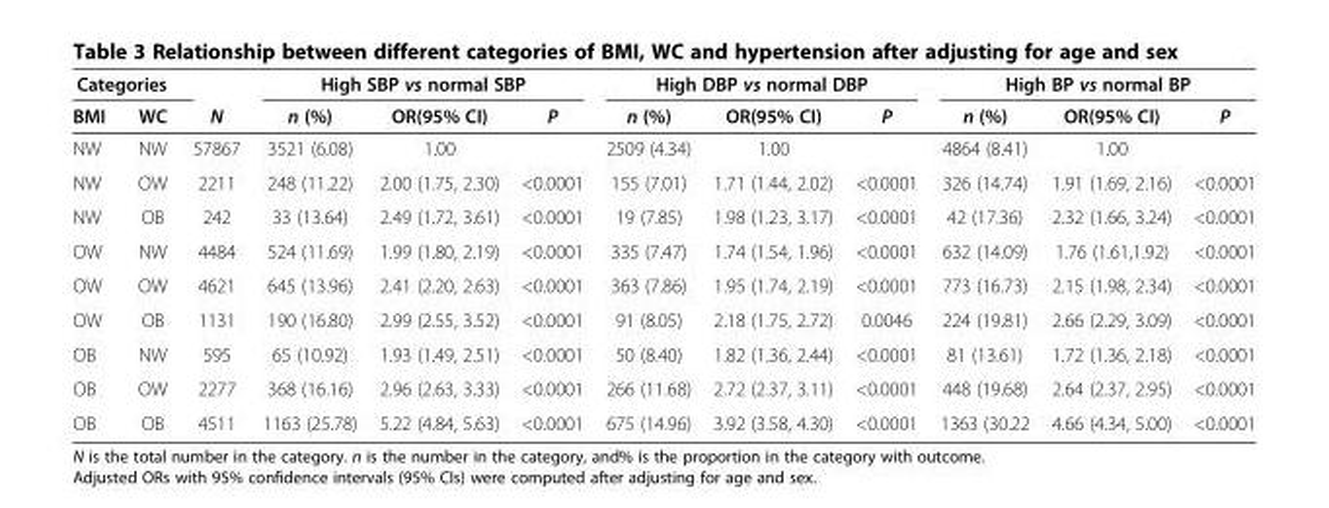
<table><thead><tr><td colspan="2">Categories</td><td rowspan="2">N</td><td colspan="3">High SBP vs normal SBP</td><td colspan="3">High DBP vs normal DBP</td><td colspan="3">High BP vs normal BP</td></tr><tr><td>BMI</td><td>WC</td><td>n (%)</td><td>OR(95% CI)</td><td>P</td><td>n (%)</td><td>OR(95% CI)</td><td>P</td><td>n (%)</td><td>OR(95% CI)</td><td>P</td></tr></thead><tbody><tr><td>NW</td><td>NW</td><td>57867</td><td>3521 (6.08)</td><td>1.00</td><td></td><td>2509 (4.34)</td><td>1.00</td><td></td><td>4864 (8.41)</td><td>1.00</td><td></td></tr><tr><td>NW</td><td>OW</td><td>2211</td><td>248 (11.22)</td><td>2.00 (1.75, 2.30)</td><td>&lt;0.0001</td><td>155 (7.01)</td><td>1.71 (1.44, 2.02)</td><td>&lt;0.0001</td><td>326 (14.74)</td><td>1.91 (1.69, 2.16)</td><td>&lt;0.0001</td></tr><tr><td>NW</td><td>OB</td><td>242</td><td>33 (13.64)</td><td>2.49 (1.72, 3.61)</td><td>&lt;0.0001</td><td>19 (7.85)</td><td>1.98 (1.23, 3.17)</td><td>&lt;0.0001</td><td>42 (17.36)</td><td>2.32 (1.66, 3.24)</td><td>&lt;0.0001</td></tr><tr><td>OW</td><td>NW</td><td>4484</td><td>524 (11.69)</td><td>1.99 (1.80, 2.19)</td><td>&lt;0.0001</td><td>335 (7.47)</td><td>1.74 (1.54, 1.96)</td><td>&lt;0.0001</td><td>632 (14.09)</td><td>1.76 (1.61,1.92)</td><td>&lt;0.0001</td></tr><tr><td>OW</td><td>OW</td><td>4621</td><td>645 (13.96)</td><td>2.41 (2.20, 2.63)</td><td>&lt;0.0001</td><td>363 (7.86)</td><td>1.95 (1.74, 2.19)</td><td>&lt;0.0001</td><td>773 (16.73)</td><td>2.15 (1.98, 2.34)</td><td>&lt;0.0001</td></tr><tr><td>OW</td><td>OB</td><td>1131</td><td>190 (16.80)</td><td>2.99 (2.55, 3.52)</td><td>&lt;0.0001</td><td>91 (8.05)</td><td>2.18 (1.75, 2.72)</td><td>0.0046</td><td>224 (19.81)</td><td>2.66 (2.29, 3.09)</td><td>&lt;0.0001</td></tr><tr><td>OB</td><td>NW</td><td>595</td><td>65 (10.92)</td><td>1.93 (1.49, 2.51)</td><td>&lt;0.0001</td><td>50 (8.40)</td><td>1.82 (1.36, 2.44)</td><td>&lt;0.0001</td><td>81 (13.61)</td><td>1.72 (1.36, 2.18)</td><td>&lt;0.0001</td></tr><tr><td>OB</td><td>OW</td><td>2277</td><td>368 (16.16)</td><td>2.96 (2.63, 3.33)</td><td>&lt;0.0001</td><td>266 (11.68)</td><td>2.72 (2.37, 3.11)</td><td>&lt;0.0001</td><td>448 (19.68)</td><td>2.64 (2.37, 2.95)</td><td>&lt;0.0001</td></tr><tr><td>OB</td><td>OB</td><td>4511</td><td>1163 (25.78)</td><td>5.22 (4.84, 5.63)</td><td>&lt;0.0001</td><td>675 (14.96)</td><td>3.92 (3.58, 4.30)</td><td>&lt;0.0001</td><td>1363 (30.22</td><td>4.66 (4.34, 5.00)</td><td>&lt;0.0001</td></tr></tbody></table>